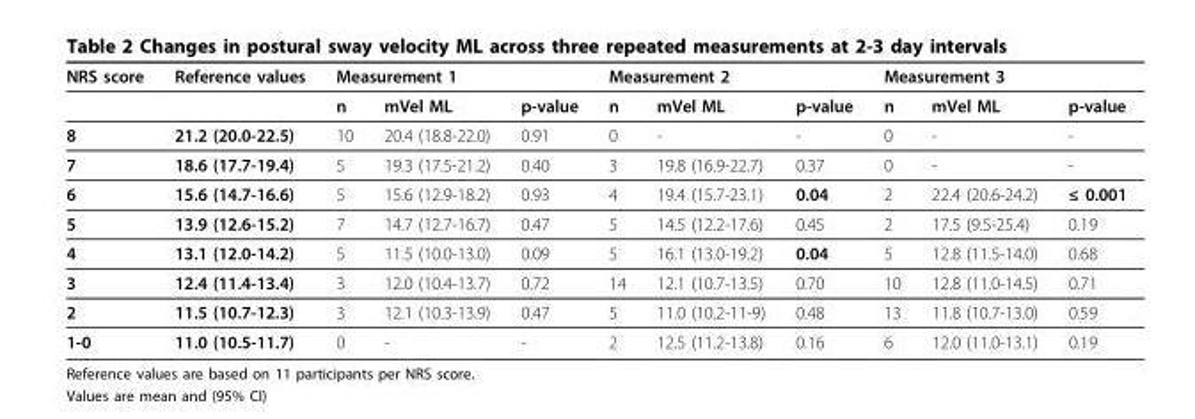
<table><thead><tr><td rowspan="2">NRS score</td><td rowspan="2">Reference values</td><td colspan="2">Measurement 1</td><td rowspan="2">p-value</td><td colspan="3">Measurement 2</td><td colspan="3">Measurement 3</td></tr><tr><td>n</td><td>mVel ML</td><td>n</td><td>mVel ML</td><td>p-value</td><td>n</td><td>mVel ML</td><td>p-value</td></tr></thead><tbody><tr><td>8</td><td>21.2 (20.0-22.5)</td><td>10</td><td>20.4 (18.8-22.0)</td><td>0.91</td><td>0</td><td>-</td><td>-</td><td>0</td><td>-</td><td>-</td></tr><tr><td>7</td><td>18.6 (17.7-19.4)</td><td>5</td><td>19.3 (17.5-21.2)</td><td>0.40</td><td>3</td><td>19.8 (16.9-22.7)</td><td>0.37</td><td>0</td><td>-</td><td>-</td></tr><tr><td>6</td><td>15.6 (14.7-16.6)</td><td>5</td><td>15.6 (12.9-18.2)</td><td>0.93</td><td>4</td><td>19.4 (15.7-23.1)</td><td>0.04</td><td>2</td><td>22.4 (20.6-24.2)</td><td>≤ 0.001</td></tr><tr><td>5</td><td>13.9 (12.6-15.2)</td><td>7</td><td>14.7 (12.7-16.7)</td><td>0.47</td><td>5</td><td>14.5 (12.2-17.6)</td><td>0.45</td><td>2</td><td>17.5 (9.5-25.4)</td><td>0.19</td></tr><tr><td>4</td><td>13.1 (12.0-14.2)</td><td>5</td><td>11.5 (10.0-13.0)</td><td>0.09</td><td>5</td><td>16.1 (13.0-19.2)</td><td>0.04</td><td>5</td><td>12.8 (11.5-14.0)</td><td>0.68</td></tr><tr><td>3</td><td>12.4 (11.4-13.4)</td><td>3</td><td>12.0 (10.4-13.7)</td><td>0.72</td><td>14</td><td>12.1 (10.7-13.5)</td><td>0.70</td><td>10</td><td>12.8 (11.0-14.5)</td><td>0.71</td></tr><tr><td>2</td><td>11.5 (10.7-12.3)</td><td>3</td><td>12.1 (10.3-13.9)</td><td>0.47</td><td>5</td><td>11.0 (10.2-11-9)</td><td>0.48</td><td>13</td><td>11.8 (10.7-13.0)</td><td>0.59</td></tr><tr><td>1-0</td><td>11.0 (10.5-11.7)</td><td>0</td><td>-</td><td>-</td><td>2</td><td>12.5 (11.2-13.8)</td><td>0.16</td><td>6</td><td>12.0 (11.0-13.1)</td><td>0.19</td></tr></tbody></table>